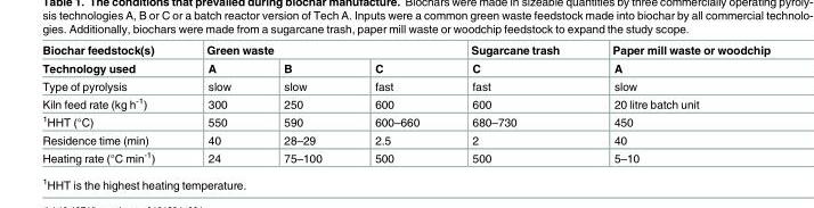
<table><thead><tr><td rowspan="2">Biochar feedstock(s) Technology used</td><td colspan="3">Green waste</td><td rowspan="2">Sugarcane trash C</td><td rowspan="2">Paper mill waste or woodchip A</td></tr><tr><td>A</td><td>B</td><td>C</td></tr></thead><tbody><tr><td>Type of pyrolysis</td><td>slow</td><td>slow</td><td>fast</td><td>fast</td><td>slow</td></tr><tr><td>Kiln feed rate (kg h<sup>-1</sup>)</td><td>300</td><td>250</td><td>600</td><td>600</td><td>20 litre batch unit</td></tr><tr><td><sup>1</sup>HHT (°C)</td><td>550</td><td>590</td><td>600–660</td><td>680–730</td><td>450</td></tr><tr><td>Residence time (min)</td><td>40</td><td>28–29</td><td>2.5</td><td>2</td><td>40</td></tr><tr><td>Heating rate (°C min<sup>-1</sup>)</td><td>24</td><td>75–100</td><td>500</td><td>500</td><td>5–10</td></tr></tbody></table>